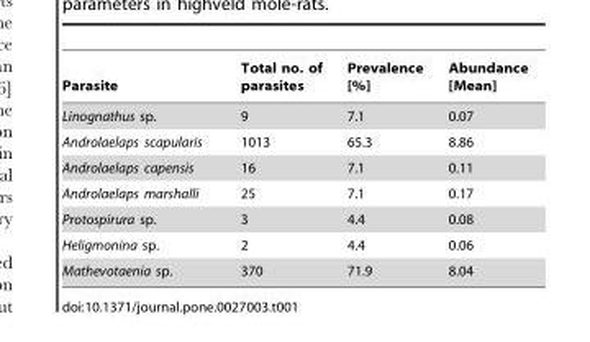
<table><thead><tr><td>Parasite</td><td>Total no. of parasites</td><td>Prevalence [%]</td><td>Abundance [Mean]</td></tr></thead><tbody><tr><td>Linognathus sp.</td><td>9</td><td>7.1</td><td>0.07</td></tr><tr><td>Androlaelaps scapularis</td><td>1013</td><td>65.3</td><td>8.86</td></tr><tr><td>Androlaelaps capensis</td><td>16</td><td>7.1</td><td>0.11</td></tr><tr><td>Androlaelaps marshalli</td><td>25</td><td>7.1</td><td>0.17</td></tr><tr><td>Protospirura sp.</td><td>3</td><td>4.4</td><td>0.08</td></tr><tr><td>Heligmonina sp.</td><td>2</td><td>4.4</td><td>0.06</td></tr><tr><td>Mathevotaenia sp.</td><td>370</td><td>71.9</td><td>8.04</td></tr></tbody></table>